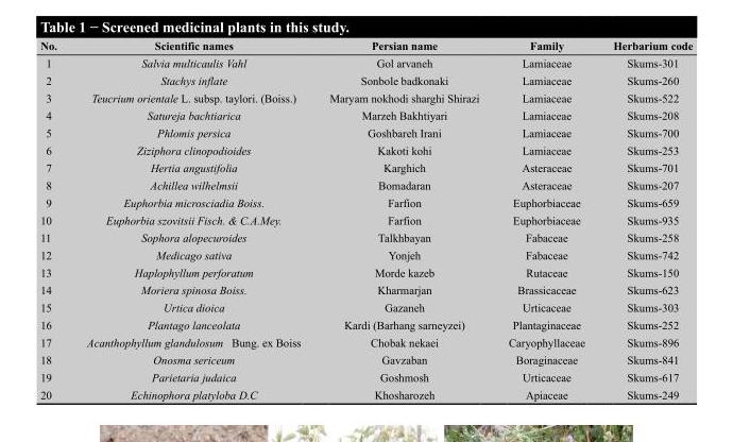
<table><thead><tr><td>No.</td><td>Scientific names</td><td>Persian name</td><td>Family</td><td>Herbarium code</td></tr></thead><tbody><tr><td>1</td><td>Salvia multicaulis Vahl</td><td>Gol arvaneh</td><td>Lamiaceae</td><td>Skums-301</td></tr><tr><td>2</td><td>Stachys inflate</td><td>Sonbole badkonaki</td><td>Lamiaceae</td><td>Skums-260</td></tr><tr><td>3</td><td>Teucrium orientale L. subsp. taylori. (Boiss.)</td><td>Maryam nokhodi sharghi Shirazi</td><td>Lamiaceae</td><td>Skums-522</td></tr><tr><td>4</td><td>Satureja bachtiarica</td><td>Marzeh Bakhtiyari</td><td>Lamiaceae</td><td>Skums-208</td></tr><tr><td>5</td><td>Phlomis persica</td><td>Goshbareh Irani</td><td>Lamiaceae</td><td>Skums-700</td></tr><tr><td>6</td><td>Ziziphora clinopodioides</td><td>Kakoti kohi</td><td>Lamiaceae</td><td>Skums-253</td></tr><tr><td>7</td><td>Hertia angustifolia</td><td>Karghich</td><td>Asteraceae</td><td>Skums-701</td></tr><tr><td>8</td><td>Achillea wilhelmsii</td><td>Bomadaran</td><td>Asteraceae</td><td>Skums-207</td></tr><tr><td>9</td><td>Euphorbia microsciadia Boiss.</td><td>Farfion</td><td>Euphorbiaceae</td><td>Skums-659</td></tr><tr><td>10</td><td>Euphorbia szovitsii Fisch. &amp; C.A.Mey.</td><td>Farfion</td><td>Euphorbiaceae</td><td>Skums-935</td></tr><tr><td>11</td><td>Sophora alopecuroides</td><td>Talkhbayan</td><td>Fabaceae</td><td>Skums-258</td></tr><tr><td>12</td><td>Medicago sativa</td><td>Yonjeh</td><td>Fabaceae</td><td>Skums-742</td></tr><tr><td>13</td><td>Haplophyllum perforatum</td><td>Morde kazeb</td><td>Rutaceae</td><td>Skums-150</td></tr><tr><td>14</td><td>Moriera spinosa Boiss.</td><td>Kharmarjan</td><td>Brassicaceae</td><td>Skums-623</td></tr><tr><td>15</td><td>Urtica dioica</td><td>Gazaneh</td><td>Urticaceae</td><td>Skums-303</td></tr><tr><td>16</td><td>Plantago lanceolata</td><td>Kardi (Barhang sarneyzei)</td><td>Plantaginaceae</td><td>Skums-252</td></tr><tr><td>17</td><td>Acanthophyllum glandulosum Bung. ex Boiss</td><td>Chobak nekaei</td><td>Caryophyllaceae</td><td>Skums-896</td></tr><tr><td>18</td><td>Onosma sericeum</td><td>Gavzaban</td><td>Boraginaceae</td><td>Skums-841</td></tr><tr><td>19</td><td>Parietaria judaica</td><td>Goshmosh</td><td>Urticaceae</td><td>Skums-617</td></tr><tr><td>20</td><td>Echinophora platyloba D.C</td><td>Khosharozeh</td><td>Apiaceae</td><td>Skums-249</td></tr></tbody></table>